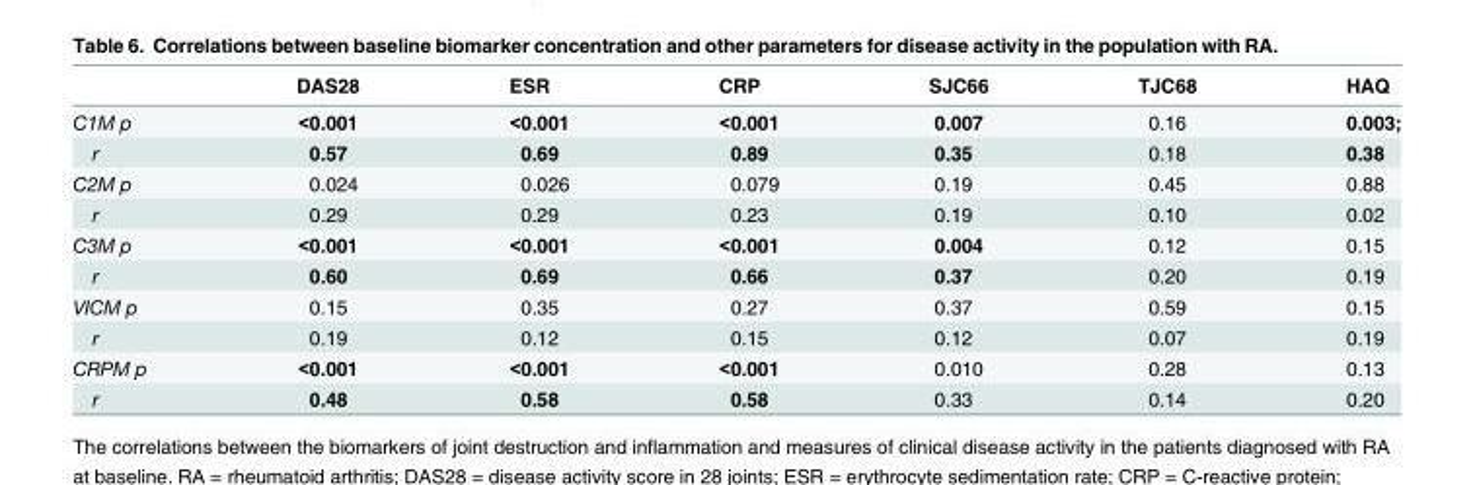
<table><thead><tr><td></td><td>DAS28</td><td>ESR</td><td>CRP</td><td>SJC66</td><td>TJC68</td><td>HAQ</td></tr></thead><tbody><tr><td>C1M p</td><td>&lt;0.001</td><td>&lt;0.001</td><td>&lt;0.001</td><td>0.007</td><td>0.16</td><td>0.003;</td></tr><tr><td>r</td><td>0.57</td><td>0.69</td><td>0.89</td><td>0.35</td><td>0.18</td><td>0.38</td></tr><tr><td>C2M p</td><td>0.024</td><td>0.026</td><td>0.079</td><td>0.19</td><td>0.45</td><td>0.88</td></tr><tr><td>r</td><td>0.29</td><td>0.29</td><td>0.23</td><td>0.19</td><td>0.10</td><td>0.02</td></tr><tr><td>C3M p</td><td>&lt;0.001</td><td>&lt;0.001</td><td>&lt;0.001</td><td>0.004</td><td>0.12</td><td>0.15</td></tr><tr><td>r</td><td>0.60</td><td>0.69</td><td>0.66</td><td>0.37</td><td>0.20</td><td>0.19</td></tr><tr><td>VICM p</td><td>0.15</td><td>0.35</td><td>0.27</td><td>0.37</td><td>0.59</td><td>0.15</td></tr><tr><td>r</td><td>0.19</td><td>0.12</td><td>0.15</td><td>0.12</td><td>0.07</td><td>0.19</td></tr><tr><td>CRPM p</td><td>&lt;0.001</td><td>&lt;0.001</td><td>&lt;0.001</td><td>0.010</td><td>0.28</td><td>0.13</td></tr><tr><td>r</td><td>0.48</td><td>0.58</td><td>0.58</td><td>0.33</td><td>0.14</td><td>0.20</td></tr></tbody></table>